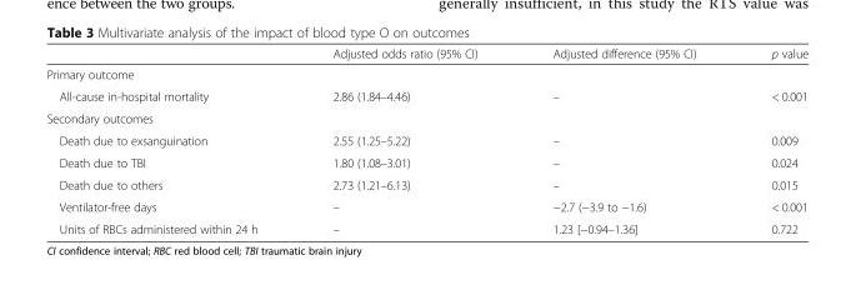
<table><thead><tr><td></td><td>Adjusted odds ratio (95% CI)</td><td>Adjusted difference (95% CI)</td><td>p value</td></tr></thead><tbody><tr><td colspan="4">Primary outcome</td></tr><tr><td>All-cause in-hospital mortality</td><td>2.86 (1.84–4.46)</td><td>–</td><td>&lt; 0.001</td></tr><tr><td colspan="4">Secondary outcomes</td></tr><tr><td>Death due to exsanguination</td><td>2.55 (1.25–5.22)</td><td>–</td><td>0.009</td></tr><tr><td>Death due to TBI</td><td>1.80 (1.08–3.01)</td><td>–</td><td>0.024</td></tr><tr><td>Death due to others</td><td>2.73 (1.21–6.13)</td><td>–</td><td>0.015</td></tr><tr><td>Ventilator-free days</td><td>–</td><td>−2.7 (−3.9 to −1.6)</td><td>&lt; 0.001</td></tr><tr><td>Units of RBCs administered within 24 h</td><td>–</td><td>1.23 [−0.94–1.36]</td><td>0.722</td></tr></tbody></table>